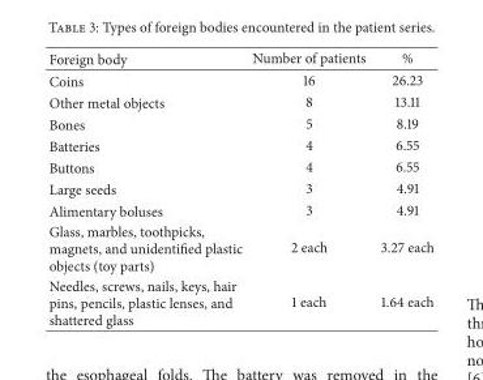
<table><thead><tr><td>Foreign body</td><td>Number of patients</td><td>%</td></tr></thead><tbody><tr><td>Coins</td><td>16</td><td>26.23</td></tr><tr><td>Other metal objects</td><td>8</td><td>13.11</td></tr><tr><td>Bones</td><td>5</td><td>8.19</td></tr><tr><td>Batteries</td><td>4</td><td>6.55</td></tr><tr><td>Buttons</td><td>4</td><td>6.55</td></tr><tr><td>Large seeds</td><td>3</td><td>4.91</td></tr><tr><td>Alimentary boluses</td><td>3</td><td>4.91</td></tr><tr><td>Glass, marbles, toothpicks, magnets, and unidentified plastic objects (toy parts)</td><td>2 each</td><td>3.27 each</td></tr><tr><td>Needles, screws, nails, keys, hair pins, pencils, plastic lenses, and shattered glass</td><td>1 each</td><td>1.64 each</td></tr></tbody></table>